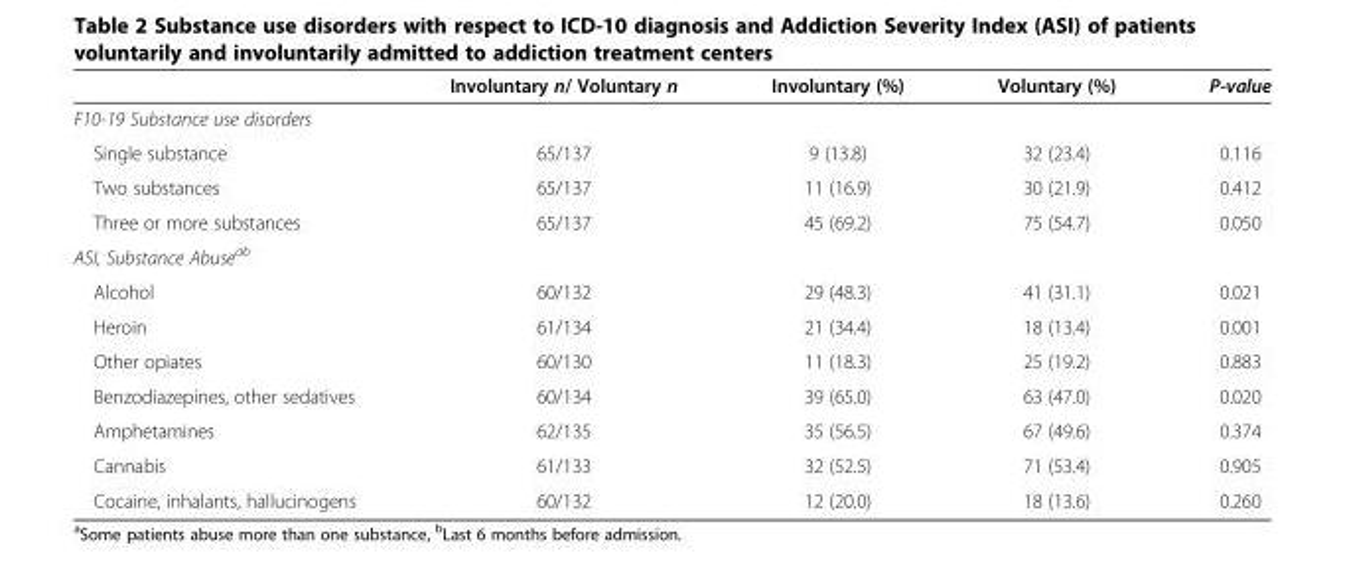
<table><thead><tr><td></td><td>Involuntary n/ Voluntary n</td><td>Involuntary (%)</td><td>Voluntary (%)</td><td>P-value</td></tr></thead><tbody><tr><td colspan="5">F10-19 Substance use disorders</td></tr><tr><td>Single substance</td><td>65/137</td><td>9 (13.8)</td><td>32 (23.4)</td><td>0.116</td></tr><tr><td>Two substances</td><td>65/137</td><td>11 (16.9)</td><td>30 (21.9)</td><td>0.412</td></tr><tr><td>Three or more substances</td><td>65/137</td><td>45 (69.2)</td><td>75 (54.7)</td><td>0.050</td></tr><tr><td colspan="5">ASI, Substance Abuse<sup>ab</sup></td></tr><tr><td>Alcohol</td><td>60/132</td><td>29 (48.3)</td><td>41 (31.1)</td><td>0.021</td></tr><tr><td>Heroin</td><td>61/134</td><td>21 (34.4)</td><td>18 (13.4)</td><td>0.001</td></tr><tr><td>Other opiates</td><td>60/130</td><td>11 (18.3)</td><td>25 (19.2)</td><td>0.883</td></tr><tr><td>Benzodiazepines, other sedatives</td><td>60/134</td><td>39 (65.0)</td><td>63 (47.0)</td><td>0.020</td></tr><tr><td>Amphetamines</td><td>62/135</td><td>35 (56.5)</td><td>67 (49.6)</td><td>0.374</td></tr><tr><td>Cannabis</td><td>61/133</td><td>32 (52.5)</td><td>71 (53.4)</td><td>0.905</td></tr><tr><td>Cocaine, inhalants, hallucinogens</td><td>60/132</td><td>12 (20.0)</td><td>18 (13.6)</td><td>0.260</td></tr></tbody></table>